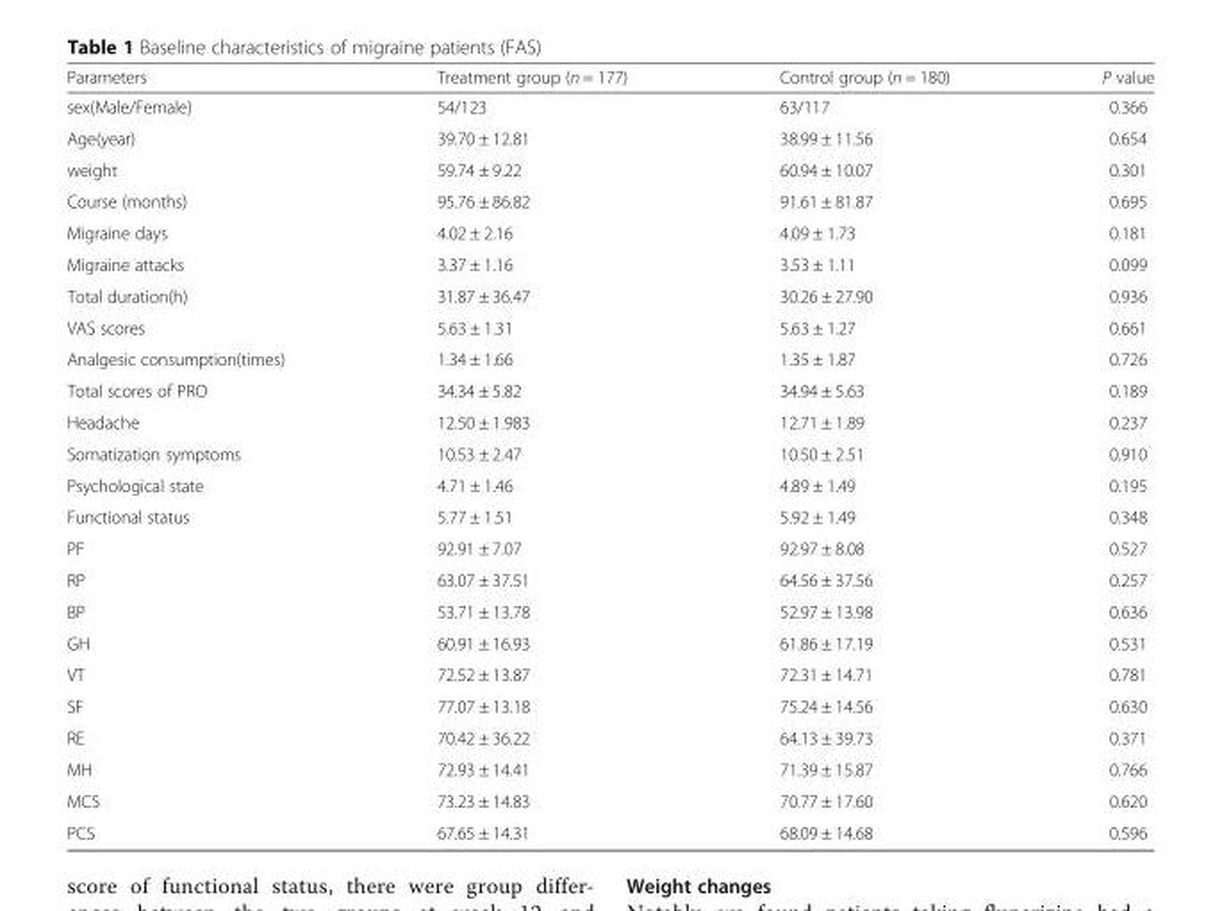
<table><thead><tr><td>Parameters</td><td>Treatment group (n = 177)</td><td>Control group (n = 180)</td><td>P value</td></tr></thead><tbody><tr><td>sex(Male/Female)</td><td>54/123</td><td>63/117</td><td>0.366</td></tr><tr><td>Age(year)</td><td>39.70 ± 12.81</td><td>38.99 ± 11.56</td><td>0.654</td></tr><tr><td>weight</td><td>59.74 ± 9.22</td><td>60.94 ± 10.07</td><td>0.301</td></tr><tr><td>Course (months)</td><td>95.76 ± 86.82</td><td>91.61 ± 81.87</td><td>0.695</td></tr><tr><td>Migraine days</td><td>4.02 ± 2.16</td><td>4.09 ± 1.73</td><td>0.181</td></tr><tr><td>Migraine attacks</td><td>3.37 ± 1.16</td><td>3.53 ± 1.11</td><td>0.099</td></tr><tr><td>Total duration(h)</td><td>31.87 ± 36.47</td><td>30.26 ± 27.90</td><td>0.936</td></tr><tr><td>VAS scores</td><td>5.63 ± 1.31</td><td>5.63 ± 1.27</td><td>0.661</td></tr><tr><td>Analgesic consumption(times)</td><td>1.34 ± 1.66</td><td>1.35 ± 1.87</td><td>0.726</td></tr><tr><td>Total scores of PRO</td><td>34.34 ± 5.82</td><td>34.94 ± 5.63</td><td>0.189</td></tr><tr><td>Headache</td><td>12.50 ± 1.983</td><td>12.71 ± 1.89</td><td>0.237</td></tr><tr><td>Somatization symptoms</td><td>10.53 ± 2.47</td><td>10.50 ± 2.51</td><td>0.910</td></tr><tr><td>Psychological state</td><td>4.71 ± 1.46</td><td>4.89 ± 1.49</td><td>0.195</td></tr><tr><td>Functional status</td><td>5.77 ± 1.51</td><td>5.92 ± 1.49</td><td>0.348</td></tr><tr><td>PF</td><td>92.91 ± 7.07</td><td>92.97 ± 8.08</td><td>0.527</td></tr><tr><td>RP</td><td>63.07 ± 37.51</td><td>64.56 ± 37.56</td><td>0.257</td></tr><tr><td>BP</td><td>53.71 ± 13.78</td><td>52.97 ± 13.98</td><td>0.636</td></tr><tr><td>GH</td><td>60.91 ± 16.93</td><td>61.86 ± 17.19</td><td>0.531</td></tr><tr><td>VT</td><td>72.52 ± 13.87</td><td>72.31 ± 14.71</td><td>0.781</td></tr><tr><td>SF</td><td>77.07 ± 13.18</td><td>75.24 ± 14.56</td><td>0.630</td></tr><tr><td>RE</td><td>70.42 ± 36.22</td><td>64.13 ± 39.73</td><td>0.371</td></tr><tr><td>MH</td><td>72.93 ± 14.41</td><td>71.39 ± 15.87</td><td>0.766</td></tr><tr><td>MCS</td><td>73.23 ± 14.83</td><td>70.77 ± 17.60</td><td>0.620</td></tr><tr><td>PCS</td><td>67.65 ± 14.31</td><td>68.09 ± 14.68</td><td>0.596</td></tr></tbody></table>